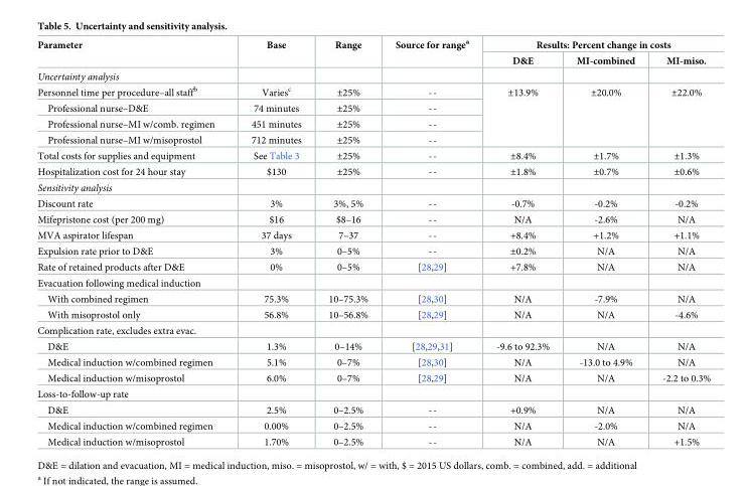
<table><thead><tr><td rowspan="2">Parameter</td><td rowspan="2">Base</td><td rowspan="2">Range</td><td rowspan="2">Source for range<sup>a</sup></td><td colspan="3">Results: Percent change in costs</td></tr><tr><td>D&amp;E</td><td>MI-combined</td><td>MI-miso.</td></tr></thead><tbody><tr><td colspan="7">Uncertainty analysis</td></tr><tr><td>Personnel time per procedure–all staff<sup>b</sup></td><td>Varies<sup>c</sup></td><td>±25%</td><td>--</td><td rowspan="4">±13.9%</td><td rowspan="4">±20.0%</td><td rowspan="4">±22.0%</td></tr><tr><td>Professional nurse–D&amp;E</td><td>74 minutes</td><td>±25%</td><td>--</td></tr><tr><td>Professional nurse–MI w/comb. regimen</td><td>451 minutes</td><td>±25%</td><td>--</td></tr><tr><td>Professional nurse–MI w/misoprostol</td><td>712 minutes</td><td>±25%</td><td>--</td></tr><tr><td>Total costs for supplies and equipment</td><td>See Table 3</td><td>±25%</td><td>--</td><td>±8.4%</td><td>±1.7%</td><td>±1.3%</td></tr><tr><td>Hospitalization cost for 24 hour stay</td><td>$130</td><td>±25%</td><td>--</td><td>±1.8%</td><td>±0.7%</td><td>±0.6%</td></tr><tr><td colspan="7">Sensitivity analysis</td></tr><tr><td>Discount rate</td><td>3%</td><td>3%, 5%</td><td>--</td><td>-0.7%</td><td>-0.2%</td><td>-0.2%</td></tr><tr><td>Mifepristone cost (per 200 mg)</td><td>$16</td><td>$8–16</td><td>--</td><td>N/A</td><td>-2.6%</td><td>N/A</td></tr><tr><td>MVA aspirator lifespan</td><td>37 days</td><td>7–37</td><td>--</td><td>+8.4%</td><td>+1.2%</td><td>+1.1%</td></tr><tr><td>Expulsion rate prior to D&amp;E</td><td>3%</td><td>0–5%</td><td>--</td><td>±0.2%</td><td>N/A</td><td>N/A</td></tr><tr><td>Rate of retained products after D&amp;E</td><td>0%</td><td>0–5%</td><td>[28,29]</td><td>+7.8%</td><td>N/A</td><td>N/A</td></tr><tr><td colspan="7">Evacuation following medical induction</td></tr><tr><td>With combined regimen</td><td>75.3%</td><td>10–75.3%</td><td>[28,30]</td><td>N/A</td><td>-7.9%</td><td>N/A</td></tr><tr><td>With misoprostol only</td><td>56.8%</td><td>10–56.8%</td><td>[28,29]</td><td>N/A</td><td>N/A</td><td>-4.6%</td></tr><tr><td colspan="7">Complication rate, excludes extra evac.</td></tr><tr><td>D&amp;E</td><td>1.3%</td><td>0–14%</td><td>[28,29,31]</td><td>-9.6 to 92.3%</td><td>N/A</td><td>N/A</td></tr><tr><td>Medical induction w/combined regimen</td><td>5.1%</td><td>0–7%</td><td>[28,30]</td><td>N/A</td><td>-13.0 to 4.9%</td><td>N/A</td></tr><tr><td>Medical induction w/misoprostol</td><td>6.0%</td><td>0–7%</td><td>[28,29]</td><td>N/A</td><td>N/A</td><td>-2.2 to 0.3%</td></tr><tr><td colspan="7">Loss-to-follow-up rate</td></tr><tr><td>D&amp;E</td><td>2.5%</td><td>0–2.5%</td><td>--</td><td>+0.9%</td><td>N/A</td><td>N/A</td></tr><tr><td>Medical induction w/combined regimen</td><td>0.00%</td><td>0–2.5%</td><td>--</td><td>N/A</td><td>-2.0%</td><td>N/A</td></tr><tr><td>Medical induction w/misoprostol</td><td>1.70%</td><td>0–2.5%</td><td>--</td><td>N/A</td><td>N/A</td><td>+1.5%</td></tr></tbody></table>